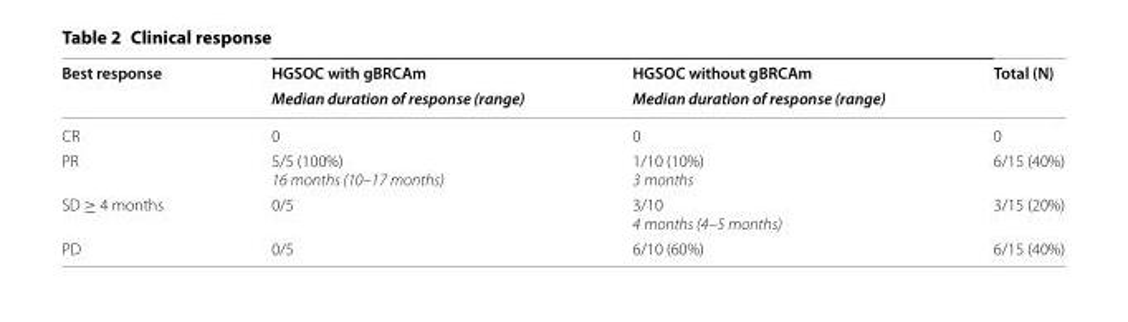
<table><thead><tr><td rowspan="2">Best response</td><td rowspan="2">HGSOC with gBRCAm Median duration of response (range)</td><td rowspan="2">HGSOC without gBRCAm Median duration of response (range)</td><td rowspan="2">Total (N)</td></tr><tr></tr></thead><tbody><tr><td>CR</td><td>0</td><td>0</td><td>0</td></tr><tr><td>PR</td><td>5/5 (100%) 16 months (10–17 months)</td><td>1/10 (10%) 3 months</td><td>6/15 (40%)</td></tr><tr><td>SD ≥ 4 months</td><td>0/5</td><td>3/10 4 months (4–5 months)</td><td>3/15 (20%)</td></tr><tr><td>PD</td><td>0/5</td><td>6/10 (60%)</td><td>6/15 (40%)</td></tr></tbody></table>